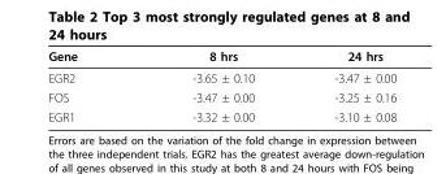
<table><thead><tr><td>Gene</td><td>8 hrs</td><td>24 hrs</td></tr></thead><tbody><tr><td>EGR2</td><td>-3.65 ± 0.10</td><td>-3.47 ± 0.00</td></tr><tr><td>FOS</td><td>-3.47 ± 0.00</td><td>-3.25 ± 0.16</td></tr><tr><td>EGR1</td><td>-3.32 ± 0.00</td><td>-3.10 ± 0.08</td></tr></tbody></table>